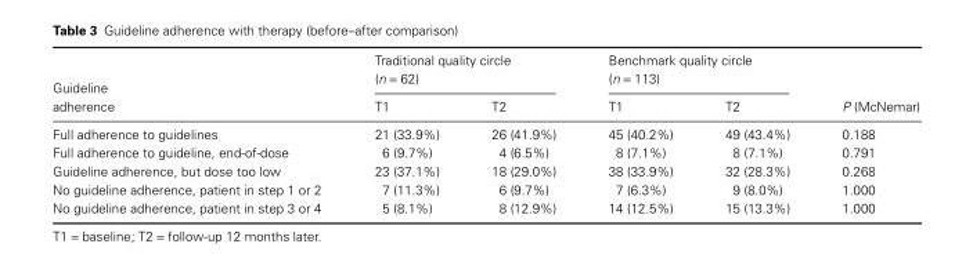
<table><thead><tr><td rowspan="2">Guideline adherence</td><td colspan="2">Traditional quality circle ( n = 62)</td><td colspan="2">Benchmark quality circle ( n = 113)</td><td rowspan="2">P (McNemar)</td></tr><tr><td>T1</td><td>T2</td><td>T1</td><td>T2</td></tr></thead><tbody><tr><td>Full adherence to guidelines</td><td>21 (33.9%)</td><td>26 (41.9%)</td><td>45 (40.2%)</td><td>49 (43.4%)</td><td>0.188</td></tr><tr><td>Full adherence to guideline, end-of-dose</td><td>6 (9.7%)</td><td>4 (6.5%)</td><td>8 (7.1%)</td><td>8 (7.1%)</td><td>0.791</td></tr><tr><td>Guideline adherence, but dose too low</td><td>23 (37.1%)</td><td>18 (29.0%)</td><td>38 (33.9%)</td><td>32 (28.3%)</td><td>0.268</td></tr><tr><td>No guideline adherence, patient in step 1 or 2</td><td>7 (11.3%)</td><td>6 (9.7%)</td><td>7 (6.3%)</td><td>9 (8.0%)</td><td>1.000</td></tr><tr><td>No guideline adherence, patient in step 3 or 4</td><td>5 (8.1%)</td><td>8 (12.9%)</td><td>14 (12.5%)</td><td>15 (13.3%)</td><td>1.000</td></tr></tbody></table>